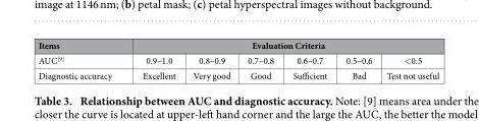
<table><thead><tr><td rowspan="2">Items AUC<sup>[9]</sup></td><td colspan="6">Evaluation Criteria</td></tr><tr><td>0.9–1.0</td><td>0.8–0.9</td><td>0.7–0.8</td><td>0.6–0.7</td><td>0.5–0.6</td><td>&lt; 0.5</td></tr></thead><tbody><tr><td>Diagnostic accuracy</td><td>Excellent</td><td>Very good</td><td>Good</td><td>Sufficient</td><td>Bad</td><td>Test not useful</td></tr></tbody></table>